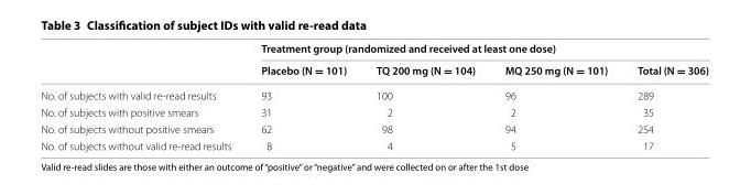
<table><thead><tr><td rowspan="2"></td><td colspan="4">Treatment group (randomized and received at least one dose)</td></tr><tr><td>Placebo (N = 101)</td><td>TQ 200 mg (N = 104)</td><td>MQ 250 mg (N = 101)</td><td>Total (N = 306)</td></tr></thead><tbody><tr><td>No. of subjects with valid re-read results</td><td>93</td><td>100</td><td>96</td><td>289</td></tr><tr><td>No. of subjects with positive smears</td><td>31</td><td>2</td><td>2</td><td>35</td></tr><tr><td>No. of subjects without positive smears</td><td>62</td><td>98</td><td>94</td><td>254</td></tr><tr><td>No. of subjects without valid re-read results</td><td>8</td><td>4</td><td>5</td><td>17</td></tr></tbody></table>